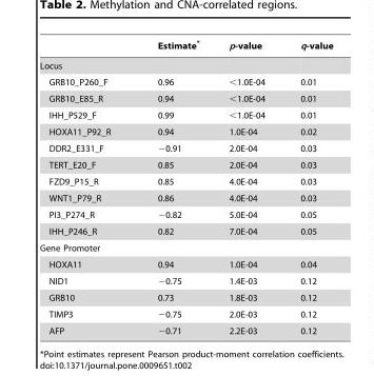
<table><thead><tr><td></td><td>Estimate*</td><td>p-value</td><td>q-value</td></tr></thead><tbody><tr><td colspan="4">Locus</td></tr><tr><td>GRB10_P260_F</td><td>0.96</td><td>&lt;1.0E-04</td><td>0.01</td></tr><tr><td>GRB10_E85_R</td><td>0.94</td><td>&lt;1.0E-04</td><td>0.01</td></tr><tr><td>IHH_P529_F</td><td>0.99</td><td>&lt;1.0E-04</td><td>0.01</td></tr><tr><td>HOXA11_P92_R</td><td>0.94</td><td>1.0E-04</td><td>0.02</td></tr><tr><td>DDR2_E331_F</td><td>−0.91</td><td>2.0E-04</td><td>0.03</td></tr><tr><td>TERT_E20_F</td><td>0.85</td><td>2.0E-04</td><td>0.03</td></tr><tr><td>FZD9_P15_R</td><td>0.85</td><td>4.0E-04</td><td>0.03</td></tr><tr><td>WNT1_P79_R</td><td>0.86</td><td>4.0E-04</td><td>0.03</td></tr><tr><td>PI3_P274_R</td><td>−0.82</td><td>5.0E-04</td><td>0.05</td></tr><tr><td>IHH_P246_R</td><td>0.82</td><td>7.0E-04</td><td>0.05</td></tr><tr><td colspan="4">Gene Promoter</td></tr><tr><td>HOXA11</td><td>0.94</td><td>1.0E-04</td><td>0.04</td></tr><tr><td>NID1</td><td>−0.75</td><td>1.4E-03</td><td>0.12</td></tr><tr><td>GRB10</td><td>0.73</td><td>1.8E-03</td><td>0.12</td></tr><tr><td>TIMP3</td><td>−0.75</td><td>2.0E-03</td><td>0.12</td></tr><tr><td>AFP</td><td>−0.71</td><td>2.2E-03</td><td>0.12</td></tr></tbody></table>